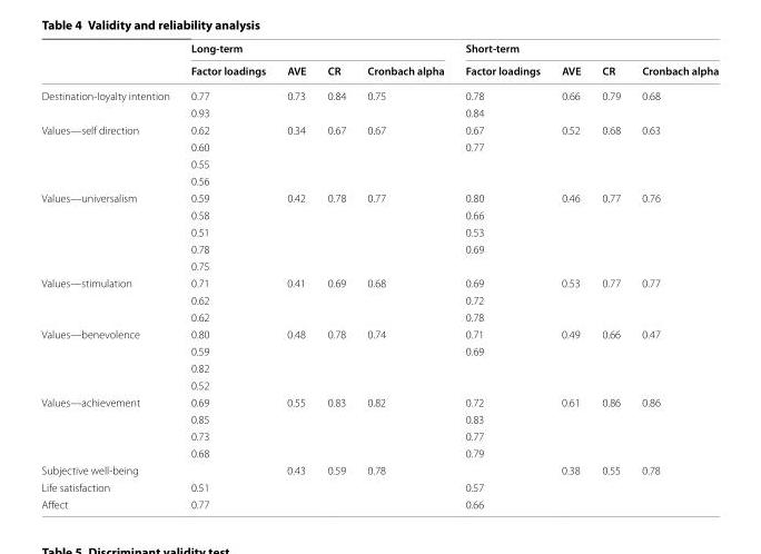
<table><thead><tr><td rowspan="2"></td><td colspan="4">Long‑term</td><td colspan="4">Short‑term</td></tr><tr><td>Factor loadings</td><td>AVE</td><td>CR</td><td>Cronbach alpha</td><td>Factor loadings</td><td>AVE</td><td>CR</td><td>Cronbach alpha</td></tr></thead><tbody><tr><td rowspan="2">Destination-loyalty intention</td><td>0.77</td><td>0.73</td><td>0.84</td><td>0.75</td><td>0.78</td><td>0.66</td><td>0.79</td><td>0.68</td></tr><tr><td>0.93</td><td></td><td></td><td></td><td>0.84</td><td></td><td></td><td></td></tr><tr><td rowspan="4">Values—self direction</td><td>0.62</td><td>0.34</td><td>0.67</td><td>0.67</td><td>0.67</td><td>0.52</td><td>0.68</td><td>0.63</td></tr><tr><td>0.60</td><td></td><td></td><td></td><td>0.77</td><td></td><td></td><td></td></tr><tr><td>0.55</td><td></td><td></td><td></td><td></td><td></td><td></td><td></td></tr><tr><td>0.56</td><td></td><td></td><td></td><td></td><td></td><td></td><td></td></tr><tr><td rowspan="5">Values—universalism</td><td>0.59</td><td>0.42</td><td>0.78</td><td>0.77</td><td>0.80</td><td>0.46</td><td>0.77</td><td>0.76</td></tr><tr><td>0.58</td><td></td><td></td><td></td><td>0.66</td><td></td><td></td><td></td></tr><tr><td>0.51</td><td></td><td></td><td></td><td>0.53</td><td></td><td></td><td></td></tr><tr><td>0.78</td><td></td><td></td><td></td><td>0.69</td><td></td><td></td><td></td></tr><tr><td>0.75</td><td></td><td></td><td></td><td></td><td></td><td></td><td></td></tr><tr><td rowspan="3">Values—stimulation</td><td>0.71</td><td>0.41</td><td>0.69</td><td>0.68</td><td>0.69</td><td>0.53</td><td>0.77</td><td>0.77</td></tr><tr><td>0.62</td><td></td><td></td><td></td><td>0.72</td><td></td><td></td><td></td></tr><tr><td>0.62</td><td></td><td></td><td></td><td>0.78</td><td></td><td></td><td></td></tr><tr><td rowspan="4">Values—benevolence</td><td>0.80</td><td>0.48</td><td>0.78</td><td>0.74</td><td>0.71</td><td>0.49</td><td>0.66</td><td>0.47</td></tr><tr><td>0.59</td><td></td><td></td><td></td><td>0.69</td><td></td><td></td><td></td></tr><tr><td>0.82</td><td></td><td></td><td></td><td></td><td></td><td></td><td></td></tr><tr><td>0.52</td><td></td><td></td><td></td><td></td><td></td><td></td><td></td></tr><tr><td rowspan="4">Values—achievement</td><td>0.69</td><td>0.55</td><td>0.83</td><td>0.82</td><td>0.72</td><td>0.61</td><td>0.86</td><td>0.86</td></tr><tr><td>0.85</td><td></td><td></td><td></td><td>0.83</td><td></td><td></td><td></td></tr><tr><td>0.73</td><td></td><td></td><td></td><td>0.77</td><td></td><td></td><td></td></tr><tr><td>0.68</td><td></td><td></td><td></td><td>0.79</td><td></td><td></td><td></td></tr><tr><td>Subjective well-being</td><td></td><td>0.43</td><td>0.59</td><td>0.78</td><td></td><td>0.38</td><td>0.55</td><td>0.78</td></tr><tr><td>Life satisfaction</td><td>0.51</td><td></td><td></td><td></td><td>0.57</td><td></td><td></td><td></td></tr><tr><td>Affect</td><td>0.77</td><td></td><td></td><td></td><td>0.66</td><td></td><td></td><td></td></tr></tbody></table>